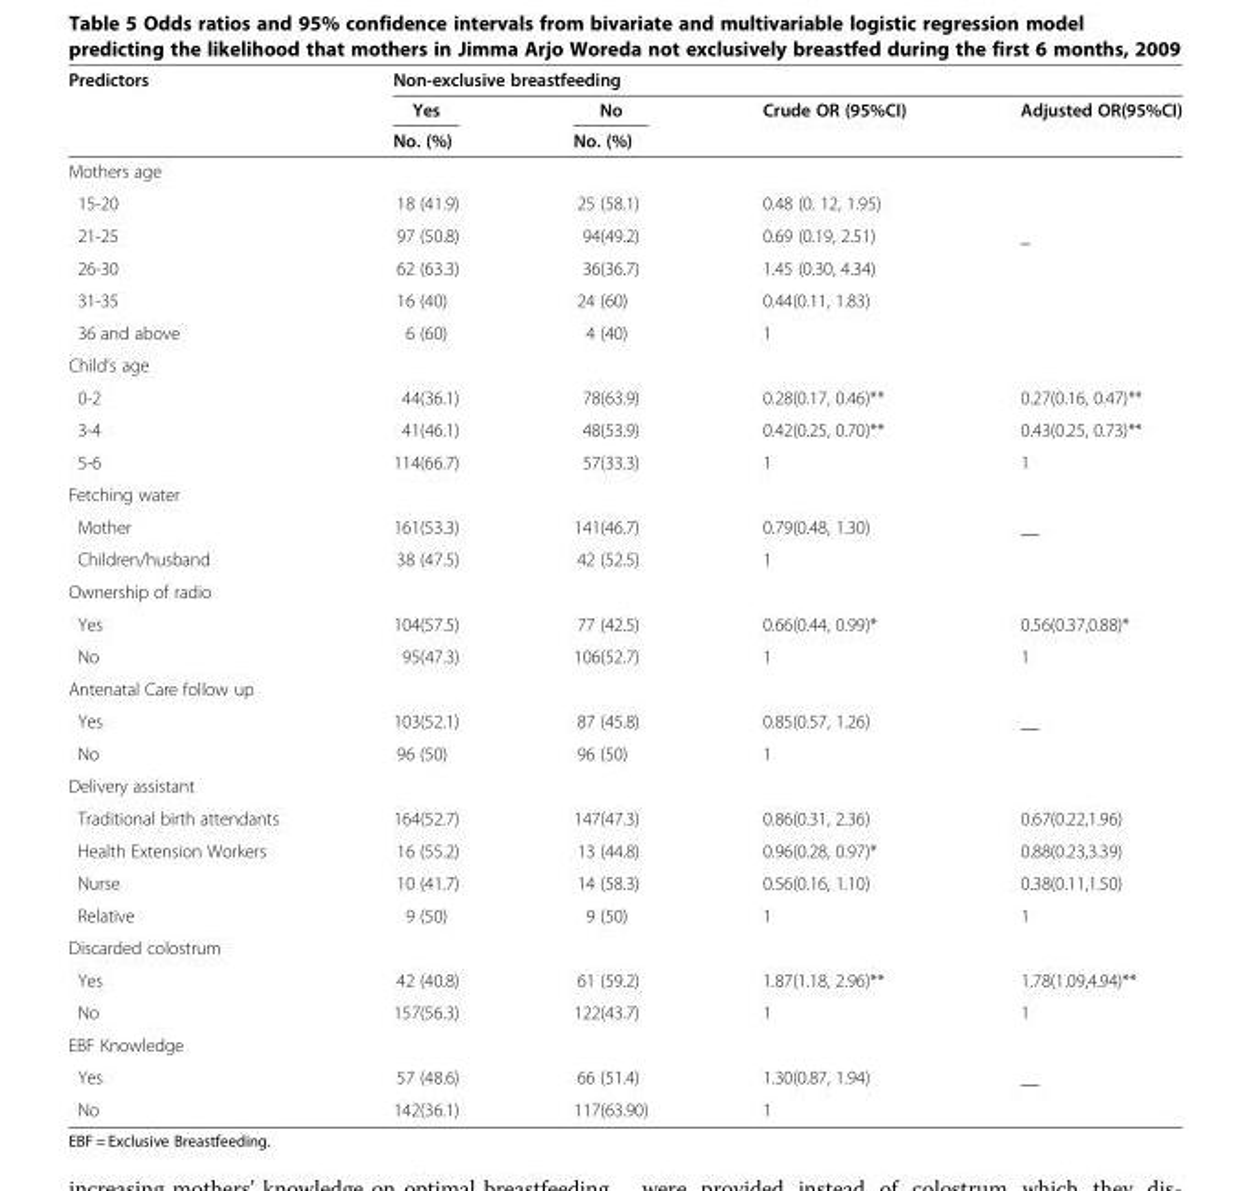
<table><thead><tr><td rowspan="3">Predictors</td><td colspan="4">Non-exclusive breastfeeding</td></tr><tr><td rowspan="2">Yes No. (%)</td><td rowspan="2">No No. (%)</td><td rowspan="2">Crude OR (95%CI)</td><td rowspan="2">Adjusted OR(95%CI)</td></tr><tr></tr></thead><tbody><tr><td colspan="5">Mothers age</td></tr><tr><td>15-20</td><td>18 (41.9)</td><td>25 (58.1)</td><td>0.48 (0. 12, 1.95)</td><td></td></tr><tr><td>21-25</td><td>97 (50.8)</td><td>94(49.2)</td><td>0.69 (0.19, 2.51)</td><td>_</td></tr><tr><td>26-30</td><td>62 (63.3)</td><td>36(36.7)</td><td>1.45 (0.30, 4.34)</td><td></td></tr><tr><td>31-35</td><td>16 (40)</td><td>24 (60)</td><td>0.44(0.11, 1.83)</td><td></td></tr><tr><td>36 and above</td><td>6 (60)</td><td>4 (40)</td><td>1</td><td></td></tr><tr><td colspan="5">Child’s age</td></tr><tr><td>0-2</td><td>44(36.1)</td><td>78(63.9)</td><td>0.28(0.17, 0.46)**</td><td>0.27(0.16, 0.47)**</td></tr><tr><td>3-4</td><td>41(46.1)</td><td>48(53.9)</td><td>0.42(0.25, 0.70)**</td><td>0.43(0.25, 0.73)**</td></tr><tr><td>5-6</td><td>114(66.7)</td><td>57(33.3)</td><td>1</td><td>1</td></tr><tr><td colspan="5">Fetching water</td></tr><tr><td>Mother</td><td>161(53.3)</td><td>141(46.7)</td><td>0.79(0.48, 1.30)</td><td>__</td></tr><tr><td>Children/husband</td><td>38 (47.5)</td><td>42 (52.5)</td><td>1</td><td></td></tr><tr><td colspan="5">Ownership of radio</td></tr><tr><td>Yes</td><td>104(57.5)</td><td>77 (42.5)</td><td>0.66(0.44, 0.99)*</td><td>0.56(0.37,0.88)*</td></tr><tr><td>No</td><td>95(47.3)</td><td>106(52.7)</td><td>1</td><td>1</td></tr><tr><td colspan="5">Antenatal Care follow up</td></tr><tr><td>Yes</td><td>103(52.1)</td><td>87 (45.8)</td><td>0.85(0.57, 1.26)</td><td>__</td></tr><tr><td>No</td><td>96 (50)</td><td>96 (50)</td><td>1</td><td></td></tr><tr><td colspan="5">Delivery assistant</td></tr><tr><td>Traditional birth attendants</td><td>164(52.7)</td><td>147(47.3)</td><td>0.86(0.31, 2.36)</td><td>0.67(0.22,1.96)</td></tr><tr><td>Health Extension Workers</td><td>16 (55.2)</td><td>13 (44.8)</td><td>0.96(0.28, 0.97)*</td><td>0.88(0.23,3.39)</td></tr><tr><td>Nurse</td><td>10 (41.7)</td><td>14 (58.3)</td><td>0.56(0.16, 1.10)</td><td>0.38(0.11,1.50)</td></tr><tr><td>Relative</td><td>9 (50)</td><td>9 (50)</td><td>1</td><td>1</td></tr><tr><td colspan="5">Discarded colostrum</td></tr><tr><td>Yes</td><td>42 (40.8)</td><td>61 (59.2)</td><td>1.87(1.18, 2.96)**</td><td>1.78(1.09,4.94)**</td></tr><tr><td>No</td><td>157(56.3)</td><td>122(43.7)</td><td>1</td><td>1</td></tr><tr><td colspan="5">EBF Knowledge</td></tr><tr><td>Yes</td><td>57 (48.6)</td><td>66 (51.4)</td><td>1.30(0.87, 1.94)</td><td>__</td></tr><tr><td>No</td><td>142(36.1)</td><td>117(63.90)</td><td>1</td><td></td></tr></tbody></table>